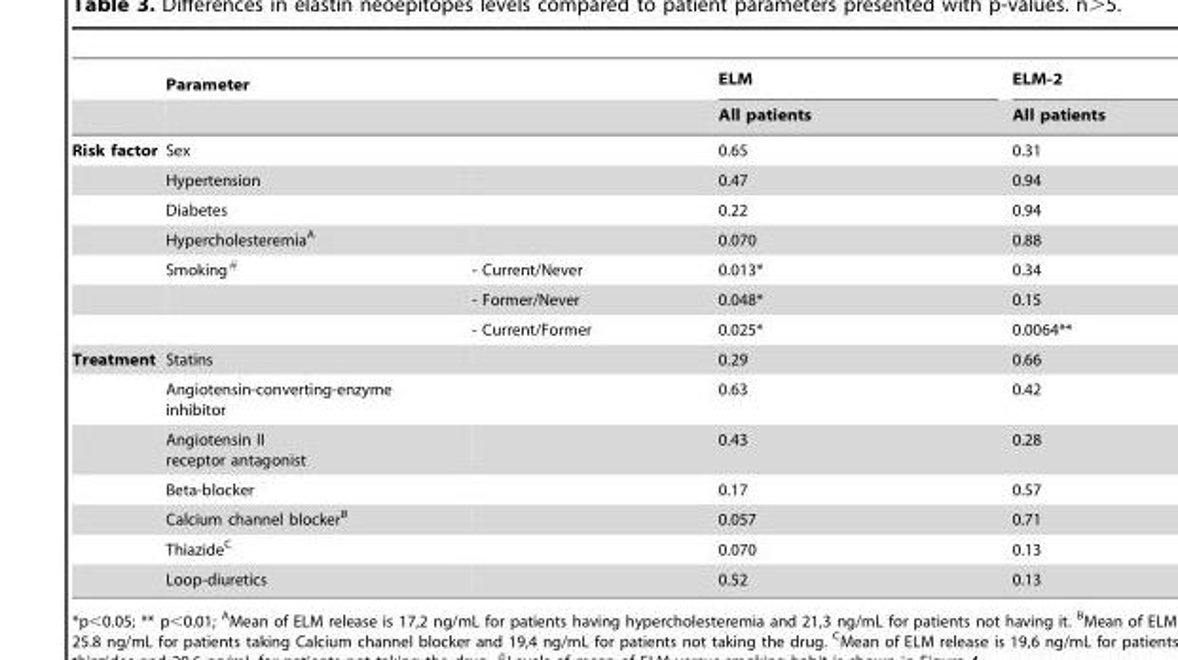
<table><thead><tr><td rowspan="2"></td><td colspan="2">Parameter</td><td rowspan="2">ELM All patients</td><td rowspan="2">ELM-2 All patients</td></tr><tr><td></td><td></td></tr></thead><tbody><tr><td rowspan="7">Risk factor</td><td>Sex</td><td></td><td>0.65</td><td>0.31</td></tr><tr><td>Hypertension</td><td></td><td>0.47</td><td>0.94</td></tr><tr><td>Diabetes</td><td></td><td>0.22</td><td>0.94</td></tr><tr><td>Hypercholesteremia<sup>A</sup></td><td></td><td>0.070</td><td>0.88</td></tr><tr><td>Smoking<sup>#</sup></td><td>- Current/Never</td><td>0.013*</td><td>0.34</td></tr><tr><td></td><td>- Former/Never</td><td>0.048*</td><td>0.15</td></tr><tr><td></td><td>- Current/Former</td><td>0.025*</td><td>0.0064**</td></tr><tr><td rowspan="7">Treatment</td><td>Statins</td><td></td><td>0.29</td><td>0.66</td></tr><tr><td>Angiotensin-converting-enzyme inhibitor</td><td></td><td>0.63</td><td>0.42</td></tr><tr><td>Angiotensin II receptor antagonist</td><td></td><td>0.43</td><td>0.28</td></tr><tr><td>Beta-blocker</td><td></td><td>0.17</td><td>0.57</td></tr><tr><td>Calcium channel blocker<sup>B</sup></td><td></td><td>0.057</td><td>0.71</td></tr><tr><td>Thiazide<sup>C</sup></td><td></td><td>0.070</td><td>0.13</td></tr><tr><td>Loop-diuretics</td><td></td><td>0.52</td><td>0.13</td></tr></tbody></table>